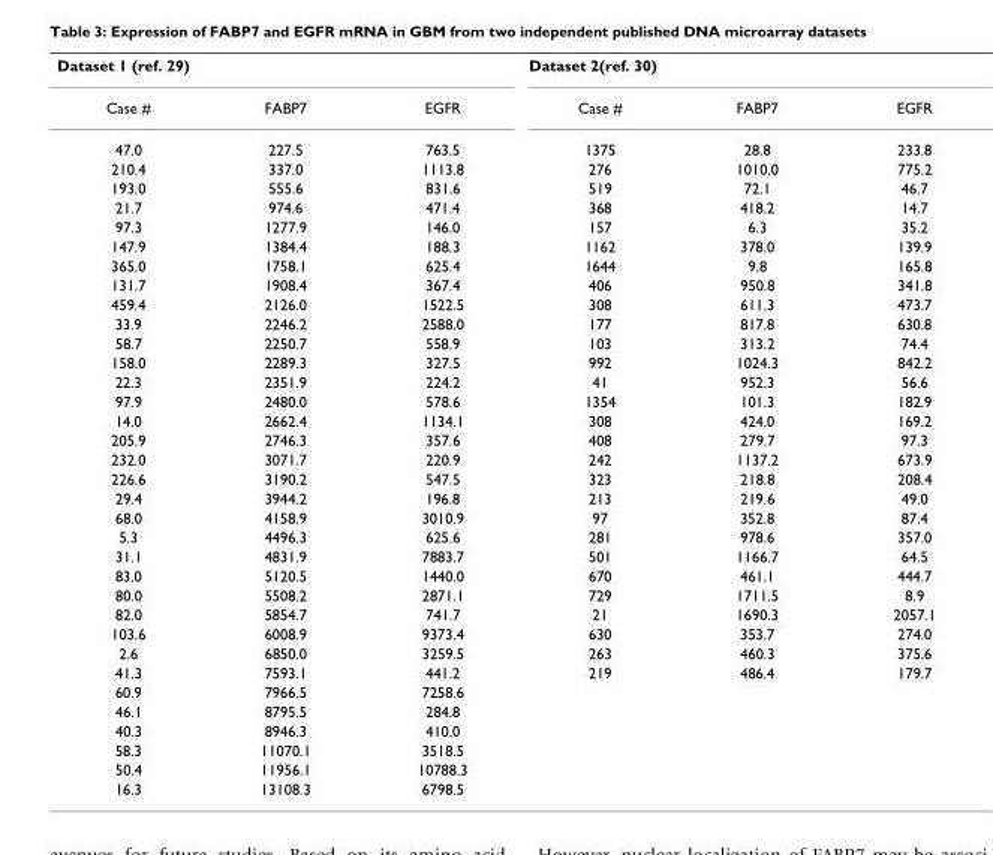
<table><tbody><tr><td colspan="3">Dataset 1 (ref. 29)</td><td colspan="3">Dataset 2(ref. 30)</td></tr><tr><td>Case #</td><td>FABP7</td><td>EGFR</td><td>Case #</td><td>FABP7</td><td>EGFR</td></tr><tr><td>47.0</td><td>227.5</td><td>763.5</td><td>1375</td><td>28.8</td><td>233.8</td></tr><tr><td>210.4</td><td>337.0</td><td>1113.8</td><td>276</td><td>1010.0</td><td>775.2</td></tr><tr><td>193.0</td><td>555.6</td><td>831.6</td><td>519</td><td>72.1</td><td>46.7</td></tr><tr><td>21.7</td><td>974.6</td><td>471.4</td><td>368</td><td>418.2</td><td>14.7</td></tr><tr><td>97.3</td><td>1277.9</td><td>146.0</td><td>157</td><td>6.3</td><td>35.2</td></tr><tr><td>147.9</td><td>1384.4</td><td>188.3</td><td>1162</td><td>378.0</td><td>139.9</td></tr><tr><td>365.0</td><td>1758.1</td><td>625.4</td><td>1644</td><td>9.8</td><td>165.8</td></tr><tr><td>131.7</td><td>1908.4</td><td>367.4</td><td>406</td><td>950.8</td><td>341.8</td></tr><tr><td>459.4</td><td>2126.0</td><td>1522.5</td><td>308</td><td>611.3</td><td>473.7</td></tr><tr><td>33.9</td><td>2246.2</td><td>2588.0</td><td>177</td><td>817.8</td><td>630.8</td></tr><tr><td>58.7</td><td>2250.7</td><td>558.9</td><td>103</td><td>313.2</td><td>74.4</td></tr><tr><td>158.0</td><td>2289.3</td><td>327.5</td><td>992</td><td>1024.3</td><td>842.2</td></tr><tr><td>22.3</td><td>2351.9</td><td>224.2</td><td>41</td><td>952.3</td><td>56.6</td></tr><tr><td>97.9</td><td>2480.0</td><td>578.6</td><td>1354</td><td>101.3</td><td>182.9</td></tr><tr><td>14.0</td><td>2662.4</td><td>1134.1</td><td>308</td><td>424.0</td><td>169.2</td></tr><tr><td>205.9</td><td>2746.3</td><td>357.6</td><td>408</td><td>279.7</td><td>97.3</td></tr><tr><td>232.0</td><td>3071.7</td><td>220.9</td><td>242</td><td>1137.2</td><td>673.9</td></tr><tr><td>226.6</td><td>3190.2</td><td>547.5</td><td>323</td><td>218.8</td><td>208.4</td></tr><tr><td>29.4</td><td>3944.2</td><td>196.8</td><td>213</td><td>219.6</td><td>49.0</td></tr><tr><td>68.0</td><td>4158.9</td><td>3010.9</td><td>97</td><td>352.8</td><td>87.4</td></tr><tr><td>5.3</td><td>4496.3</td><td>625.6</td><td>281</td><td>978.6</td><td>357.0</td></tr><tr><td>31.1</td><td>4831.9</td><td>7883.7</td><td>501</td><td>1166.7</td><td>64.5</td></tr><tr><td>83.0</td><td>5120.5</td><td>1440.0</td><td>670</td><td>461.1</td><td>444.7</td></tr><tr><td>80.0</td><td>5508.2</td><td>2871.1</td><td>729</td><td>1711.5</td><td>8.9</td></tr><tr><td>82.0</td><td>5854.7</td><td>741.7</td><td>21</td><td>1690.3</td><td>2057.1</td></tr><tr><td>103.6</td><td>6008.9</td><td>9373.4</td><td>630</td><td>353.7</td><td>274.0</td></tr><tr><td>2.6</td><td>6850.0</td><td>3259.5</td><td>263</td><td>460.3</td><td>375.6</td></tr><tr><td>41.3</td><td>7593.1</td><td>441.2</td><td>219</td><td>486.4</td><td>179.7</td></tr><tr><td>60.9</td><td>7966.5</td><td>7258.6</td><td></td><td></td><td></td></tr><tr><td>46.1</td><td>8795.5</td><td>284.8</td><td></td><td></td><td></td></tr><tr><td>40.3</td><td>8946.3</td><td>410.0</td><td></td><td></td><td></td></tr><tr><td>58.3</td><td>11070.1</td><td>3518.5</td><td></td><td></td><td></td></tr><tr><td>50.4</td><td>11956.1</td><td>10788.3</td><td></td><td></td><td></td></tr><tr><td>16.3</td><td>13108.3</td><td>6798.5</td><td></td><td></td><td></td></tr></tbody></table>